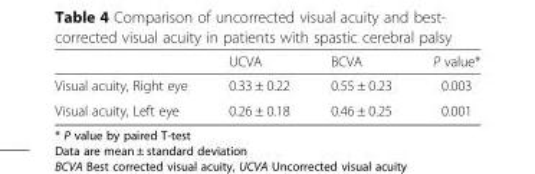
<table><thead><tr><td></td><td>UCVA</td><td>BCVA</td><td>P value*</td></tr></thead><tbody><tr><td>Visual acuity, Right eye</td><td>0.33 ± 0.22</td><td>0.55 ± 0.23</td><td>0.003</td></tr><tr><td>Visual acuity, Left eye</td><td>0.26 ± 0.18</td><td>0.46 ± 0.25</td><td>0.001</td></tr></tbody></table>